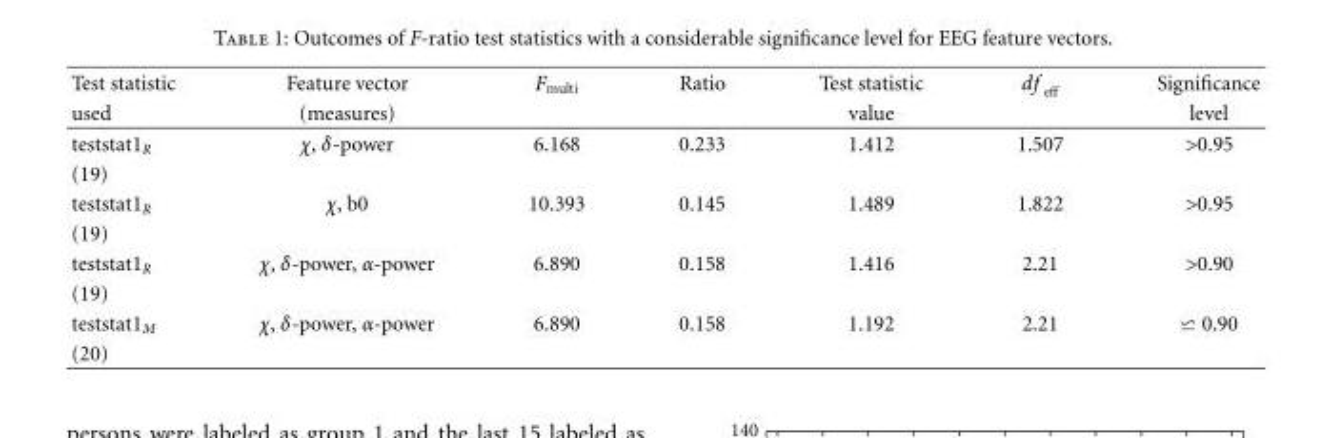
<table><thead><tr><td rowspan="2">Test statistic used</td><td rowspan="2">Feature vector (measures)</td><td rowspan="2">F<sub>multi</sub></td><td rowspan="2">Ratio</td><td rowspan="2">Test statistic value</td><td rowspan="2">df <sub>eff</sub></td><td rowspan="2">Significance level</td></tr><tr></tr></thead><tbody><tr><td>teststat1<sub>R</sub></td><td>χ, δ-power</td><td>6.168</td><td>0.233</td><td>1.412</td><td>1.507</td><td>&gt;0.95</td></tr><tr><td colspan="7">(19)</td></tr><tr><td>teststat1<sub>R</sub></td><td>χ, b0</td><td>10.393</td><td>0.145</td><td>1.489</td><td>1.822</td><td>&gt;0.95</td></tr><tr><td colspan="7">(19)</td></tr><tr><td>teststat1<sub>R</sub></td><td>χ, δ-power, α-power</td><td>6.890</td><td>0.158</td><td>1.416</td><td>2.21</td><td>&gt;0.90</td></tr><tr><td colspan="7">(19)</td></tr><tr><td>teststat1<sub>M</sub></td><td>χ, δ-power, α-power</td><td>6.890</td><td>0.158</td><td>1.192</td><td>2.21</td><td>⋍ 0.90</td></tr><tr><td>(20)</td><td></td><td></td><td></td><td></td><td></td><td></td></tr></tbody></table>